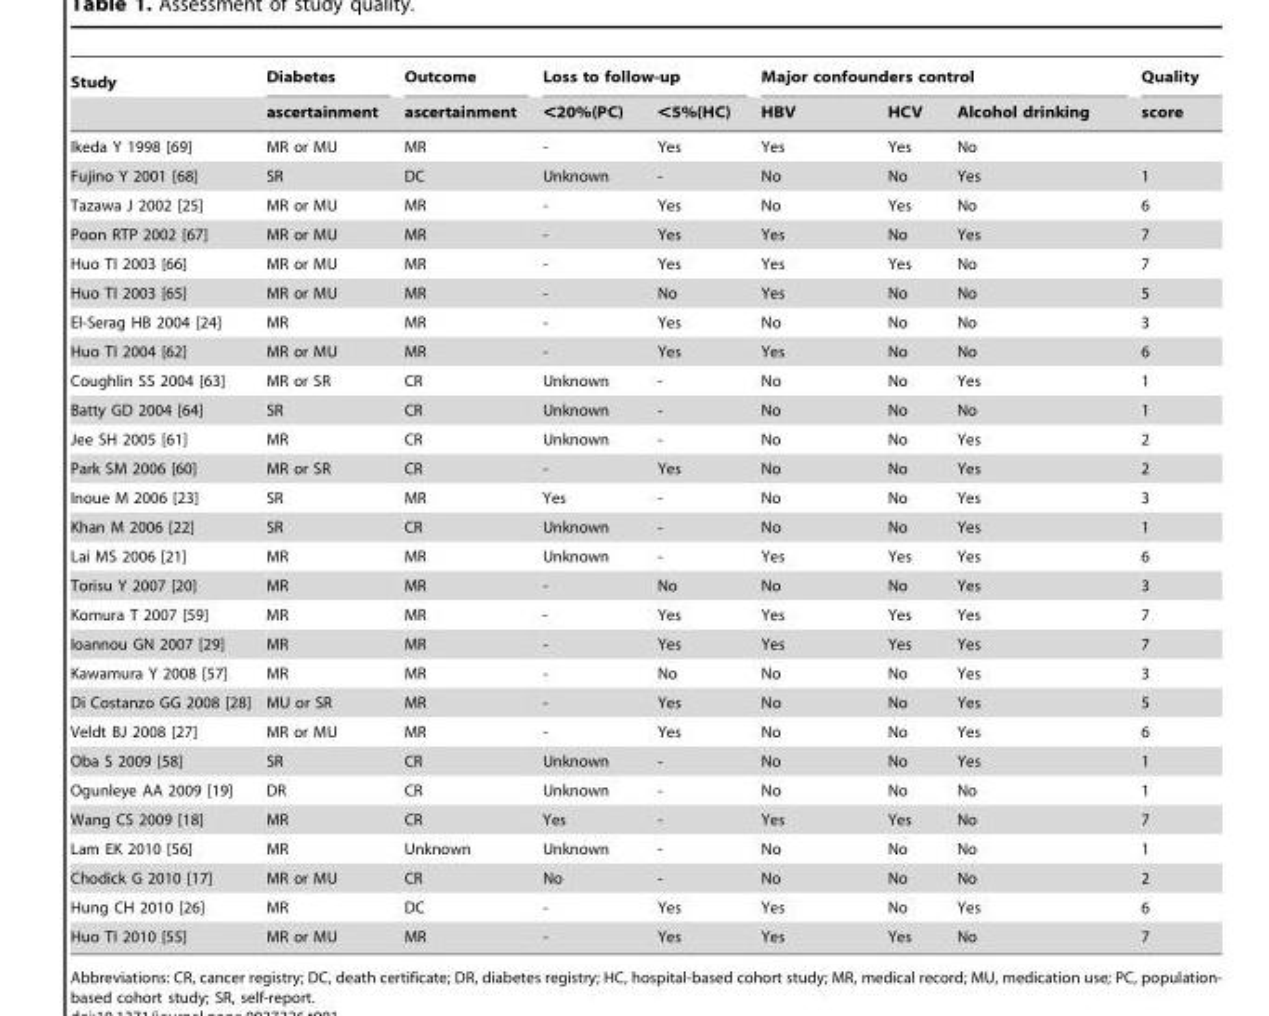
<table><thead><tr><td rowspan="2">Study</td><td rowspan="2">Diabetes ascertainment</td><td rowspan="2">Outcome ascertainment</td><td colspan="2">Loss to follow-up</td><td colspan="3">Major confounders control</td><td rowspan="2">Quality score</td></tr><tr><td>&lt;20%(PC)</td><td>&lt;5%(HC)</td><td>HBV</td><td>HCV</td><td>Alcohol drinking</td></tr></thead><tbody><tr><td>Ikeda Y 1998 [69]</td><td>MR or MU</td><td>MR</td><td>-</td><td>Yes</td><td>Yes</td><td>Yes</td><td>No</td><td></td></tr><tr><td>Fujino Y 2001 [68]</td><td>SR</td><td>DC</td><td>Unknown</td><td>-</td><td>No</td><td>No</td><td>Yes</td><td>1</td></tr><tr><td>Tazawa J 2002 [25]</td><td>MR or MU</td><td>MR</td><td>-</td><td>Yes</td><td>No</td><td>Yes</td><td>No</td><td>6</td></tr><tr><td>Poon RTP 2002 [67]</td><td>MR or MU</td><td>MR</td><td>-</td><td>Yes</td><td>Yes</td><td>No</td><td>Yes</td><td>7</td></tr><tr><td>Huo TI 2003 [66]</td><td>MR or MU</td><td>MR</td><td>-</td><td>Yes</td><td>Yes</td><td>Yes</td><td>No</td><td>7</td></tr><tr><td>Huo TI 2003 [65]</td><td>MR or MU</td><td>MR</td><td>-</td><td>No</td><td>Yes</td><td>No</td><td>No</td><td>5</td></tr><tr><td>El-Serag HB 2004 [24]</td><td>MR</td><td>MR</td><td>-</td><td>Yes</td><td>No</td><td>No</td><td>No</td><td>3</td></tr><tr><td>Huo TI 2004 [62]</td><td>MR or MU</td><td>MR</td><td>-</td><td>Yes</td><td>Yes</td><td>No</td><td>No</td><td>6</td></tr><tr><td>Coughlin SS 2004 [63]</td><td>MR or SR</td><td>CR</td><td>Unknown</td><td>-</td><td>No</td><td>No</td><td>Yes</td><td>1</td></tr><tr><td>Batty GD 2004 [64]</td><td>SR</td><td>CR</td><td>Unknown</td><td>-</td><td>No</td><td>No</td><td>No</td><td>1</td></tr><tr><td>Jee SH 2005 [61]</td><td>MR</td><td>CR</td><td>Unknown</td><td>-</td><td>No</td><td>No</td><td>Yes</td><td>2</td></tr><tr><td>Park SM 2006 [60]</td><td>MR or SR</td><td>CR</td><td>-</td><td>Yes</td><td>No</td><td>No</td><td>Yes</td><td>2</td></tr><tr><td>Inoue M 2006 [23]</td><td>SR</td><td>MR</td><td>Yes</td><td>-</td><td>No</td><td>No</td><td>Yes</td><td>3</td></tr><tr><td>Khan M 2006 [22]</td><td>SR</td><td>CR</td><td>Unknown</td><td>-</td><td>No</td><td>No</td><td>Yes</td><td>1</td></tr><tr><td>Lai MS 2006 [21]</td><td>MR</td><td>MR</td><td>Unknown</td><td>-</td><td>Yes</td><td>Yes</td><td>Yes</td><td>6</td></tr><tr><td>Torisu Y 2007 [20]</td><td>MR</td><td>MR</td><td>-</td><td>No</td><td>No</td><td>No</td><td>Yes</td><td>3</td></tr><tr><td>Komura T 2007 [59]</td><td>MR</td><td>MR</td><td>-</td><td>Yes</td><td>Yes</td><td>Yes</td><td>Yes</td><td>7</td></tr><tr><td>Ioannou GN 2007 [29]</td><td>MR</td><td>MR</td><td>-</td><td>Yes</td><td>Yes</td><td>Yes</td><td>Yes</td><td>7</td></tr><tr><td>Kawamura Y 2008 [57]</td><td>MR</td><td>MR</td><td>-</td><td>No</td><td>No</td><td>No</td><td>Yes</td><td>3</td></tr><tr><td>Di Costanzo GG 2008 [28]</td><td>MU or SR</td><td>MR</td><td>-</td><td>Yes</td><td>No</td><td>No</td><td>Yes</td><td>5</td></tr><tr><td>Veldt BJ 2008 [27]</td><td>MR or MU</td><td>MR</td><td>-</td><td>Yes</td><td>No</td><td>No</td><td>Yes</td><td>6</td></tr><tr><td>Oba S 2009 [58]</td><td>SR</td><td>CR</td><td>Unknown</td><td>-</td><td>No</td><td>No</td><td>Yes</td><td>1</td></tr><tr><td>Ogunleye AA 2009 [19]</td><td>DR</td><td>CR</td><td>Unknown</td><td>-</td><td>No</td><td>No</td><td>No</td><td>1</td></tr><tr><td>Wang CS 2009 [18]</td><td>MR</td><td>CR</td><td>Yes</td><td>-</td><td>Yes</td><td>Yes</td><td>No</td><td>7</td></tr><tr><td>Lam EK 2010 [56]</td><td>MR</td><td>Unknown</td><td>Unknown</td><td>-</td><td>No</td><td>No</td><td>No</td><td>1</td></tr><tr><td>Chodick G 2010 [17]</td><td>MR or MU</td><td>CR</td><td>No</td><td>-</td><td>No</td><td>No</td><td>No</td><td>2</td></tr><tr><td>Hung CH 2010 [26]</td><td>MR</td><td>DC</td><td>-</td><td>Yes</td><td>Yes</td><td>No</td><td>Yes</td><td>6</td></tr><tr><td>Huo TI 2010 [55]</td><td>MR or MU</td><td>MR</td><td>-</td><td>Yes</td><td>Yes</td><td>Yes</td><td>No</td><td>7</td></tr></tbody></table>